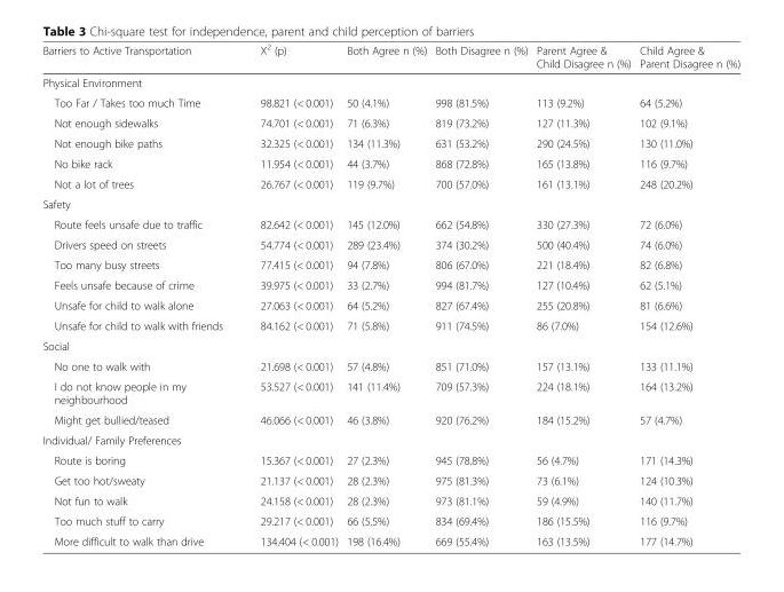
<table><thead><tr><td>Barriers to Active Transportation</td><td>X<sup>2</sup> (p)</td><td>Both Agree n (%)</td><td>Both Disagree n (%)</td><td>Parent Agree &amp; Child Disagree n (%)</td><td>Child Agree &amp; Parent Disagree n (%)</td></tr></thead><tbody><tr><td colspan="6">Physical Environment</td></tr><tr><td>Too Far / Takes too much Time</td><td>98.821 (&lt; 0.001)</td><td>50 (4.1%)</td><td>998 (81.5%)</td><td>113 (9.2%)</td><td>64 (5.2%)</td></tr><tr><td>Not enough sidewalks</td><td>74.701 (&lt; 0.001)</td><td>71 (6.3%)</td><td>819 (73.2%)</td><td>127 (11.3%)</td><td>102 (9.1%)</td></tr><tr><td>Not enough bike paths</td><td>32.325 (&lt; 0.001)</td><td>134 (11.3%)</td><td>631 (53.2%)</td><td>290 (24.5%)</td><td>130 (11.0%)</td></tr><tr><td>No bike rack</td><td>11.954 (&lt; 0.001)</td><td>44 (3.7%)</td><td>868 (72.8%)</td><td>165 (13.8%)</td><td>116 (9.7%)</td></tr><tr><td>Not a lot of trees</td><td>26.767 (&lt; 0.001)</td><td>119 (9.7%)</td><td>700 (57.0%)</td><td>161 (13.1%)</td><td>248 (20.2%)</td></tr><tr><td colspan="6">Safety</td></tr><tr><td>Route feels unsafe due to traffic</td><td>82.642 (&lt; 0.001)</td><td>145 (12.0%)</td><td>662 (54.8%)</td><td>330 (27.3%)</td><td>72 (6.0%)</td></tr><tr><td>Drivers speed on streets</td><td>54.774 (&lt; 0.001)</td><td>289 (23.4%)</td><td>374 (30.2%)</td><td>500 (40.4%)</td><td>74 (6.0%)</td></tr><tr><td>Too many busy streets</td><td>77.415 (&lt; 0.001)</td><td>94 (7.8%)</td><td>806 (67.0%)</td><td>221 (18.4%)</td><td>82 (6.8%)</td></tr><tr><td>Feels unsafe because of crime</td><td>39.975 (&lt; 0.001)</td><td>33 (2.7%)</td><td>994 (81.7%)</td><td>127 (10.4%)</td><td>62 (5.1%)</td></tr><tr><td>Unsafe for child to walk alone</td><td>27.063 (&lt; 0.001)</td><td>64 (5.2%)</td><td>827 (67.4%)</td><td>255 (20.8%)</td><td>81 (6.6%)</td></tr><tr><td>Unsafe for child to walk with friends</td><td>84.162 (&lt; 0.001)</td><td>71 (5.8%)</td><td>911 (74.5%)</td><td>86 (7.0%)</td><td>154 (12.6%)</td></tr><tr><td colspan="6">Social</td></tr><tr><td>No one to walk with</td><td>21.698 (&lt; 0.001)</td><td>57 (4.8%)</td><td>851 (71.0%)</td><td>157 (13.1%)</td><td>133 (11.1%)</td></tr><tr><td>I do not know people in my neighbourhood</td><td>53.527 (&lt; 0.001)</td><td>141 (11.4%)</td><td>709 (57.3%)</td><td>224 (18.1%)</td><td>164 (13.2%)</td></tr><tr><td>Might get bullied/teased</td><td>46.066 (&lt; 0.001)</td><td>46 (3.8%)</td><td>920 (76.2%)</td><td>184 (15.2%)</td><td>57 (4.7%)</td></tr><tr><td colspan="6">Individual/ Family Preferences</td></tr><tr><td>Route is boring</td><td>15.367 (&lt; 0.001)</td><td>27 (2.3%)</td><td>945 (78.8%)</td><td>56 (4.7%)</td><td>171 (14.3%)</td></tr><tr><td>Get too hot/sweaty</td><td>21.137 (&lt; 0.001)</td><td>28 (2.3%)</td><td>975 (81.3%)</td><td>73 (6.1%)</td><td>124 (10.3%)</td></tr><tr><td>Not fun to walk</td><td>24.158 (&lt; 0.001)</td><td>28 (2.3%)</td><td>973 (81.1%)</td><td>59 (4.9%)</td><td>140 (11.7%)</td></tr><tr><td>Too much stuff to carry</td><td>29.217 (&lt; 0.001)</td><td>66 (5.5%)</td><td>834 (69.4%)</td><td>186 (15.5%)</td><td>116 (9.7%)</td></tr><tr><td>More difficult to walk than drive</td><td>134.404 (&lt; 0.001)</td><td>198 (16.4%)</td><td>669 (55.4%)</td><td>163 (13.5%)</td><td>177 (14.7%)</td></tr></tbody></table>